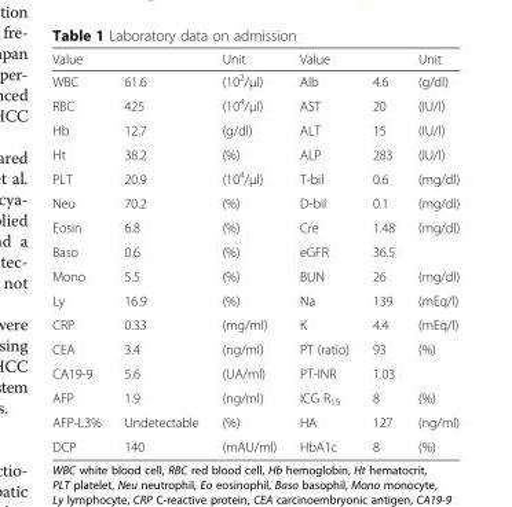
<table><thead><tr><td>Value</td><td></td><td>Unit</td><td>Value</td><td></td><td>Unit</td></tr></thead><tbody><tr><td>WBC</td><td>61.6</td><td>(10<sup>2</sup>/μl)</td><td>Alb</td><td>4.6</td><td>(g/dl)</td></tr><tr><td>RBC</td><td>425</td><td>(10<sup>4</sup>/μl)</td><td>AST</td><td>20</td><td>(IU/l)</td></tr><tr><td>Hb</td><td>12.7</td><td>(g/dl)</td><td>ALT</td><td>15</td><td>(IU/l)</td></tr><tr><td>Ht</td><td>38.2</td><td>(%)</td><td>ALP</td><td>283</td><td>(IU/l)</td></tr><tr><td>PLT</td><td>20.9</td><td>(10<sup>4</sup>/μl)</td><td>T-bil</td><td>0.6</td><td>(mg/dl)</td></tr><tr><td>Neu</td><td>70.2</td><td>(%)</td><td>D-bil</td><td>0.1</td><td>(mg/dl)</td></tr><tr><td>Eosin</td><td>6.8</td><td>(%)</td><td>Cre</td><td>1.48</td><td>(mg/dl)</td></tr><tr><td>Baso</td><td>0.6</td><td>(%)</td><td>eGFR</td><td>36.5</td><td></td></tr><tr><td>Mono</td><td>5.5</td><td>(%)</td><td>BUN</td><td>26</td><td>(mg/dl)</td></tr><tr><td>Ly</td><td>16.9</td><td>(%)</td><td>Na</td><td>139</td><td>(mEq/l)</td></tr><tr><td>CRP</td><td>0.33</td><td>(mg/ml)</td><td>K</td><td>4.4</td><td>(mEq/l)</td></tr><tr><td>CEA</td><td>3.4</td><td>(ng/ml)</td><td>PT (ratio)</td><td>93</td><td>(%)</td></tr><tr><td>CA19-9</td><td>5.6</td><td>(UA/ml)</td><td>PT-INR</td><td>1.03</td><td></td></tr><tr><td>AFP</td><td>1.9</td><td>(ng/ml)</td><td>ICG R<sub>15</sub></td><td>8</td><td>(%)</td></tr><tr><td>AFP-L3%</td><td>Undetectable</td><td>(%)</td><td>HA</td><td>127</td><td>(ng/ml)</td></tr><tr><td>DCP</td><td>140</td><td>(mAU/ml)</td><td>HbA1c</td><td>8</td><td>(%)</td></tr></tbody></table>